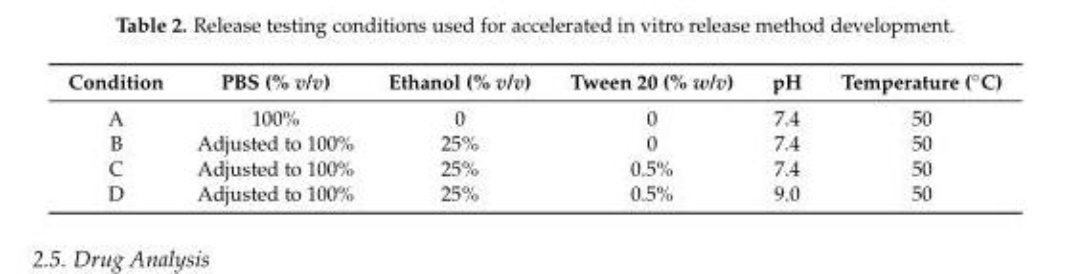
<table><thead><tr><td>Condition</td><td>PBS (% v/v)</td><td>Ethanol (% v/v)</td><td>Tween 20 (% w/v)</td><td>pH</td><td>Temperature (◦C)</td></tr></thead><tbody><tr><td>A</td><td>100%</td><td>0</td><td>0</td><td>7.4</td><td>50</td></tr><tr><td>B</td><td>Adjusted to 100%</td><td>25%</td><td>0</td><td>7.4</td><td>50</td></tr><tr><td>C</td><td>Adjusted to 100%</td><td>25%</td><td>0.5%</td><td>7.4</td><td>50</td></tr><tr><td>D</td><td>Adjusted to 100%</td><td>25%</td><td>0.5%</td><td>9.0</td><td>50</td></tr></tbody></table>